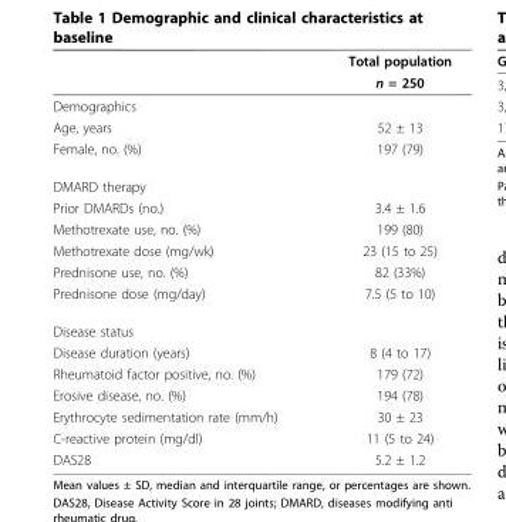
<table><thead><tr><td rowspan="2"></td><td rowspan="2">Total population n = 250</td></tr><tr></tr></thead><tbody><tr><td colspan="2">Demographics</td></tr><tr><td>Age, years</td><td>52 ± 13</td></tr><tr><td>Female, no. (%)</td><td>197 (79)</td></tr><tr><td colspan="2">DMARD therapy</td></tr><tr><td>Prior DMARDs (no.)</td><td>3.4 ± 1.6</td></tr><tr><td>Methotrexate use, no. (%)</td><td>199 (80)</td></tr><tr><td>Methotrexate dose (mg/wk)</td><td>23 (15 to 25)</td></tr><tr><td>Prednisone use, no. (%)</td><td>82 (33%)</td></tr><tr><td>Prednisone dose (mg/day)</td><td>7.5 (5 to 10)</td></tr><tr><td colspan="2">Disease status</td></tr><tr><td>Disease duration (years)</td><td>8 (4 to 17)</td></tr><tr><td>Rheumatoid factor positive, no. (%)</td><td>179 (72)</td></tr><tr><td>Erosive disease, no. (%)</td><td>194 (78)</td></tr><tr><td>Erythrocyte sedimentation rate (mm/h)</td><td>30 ± 23</td></tr><tr><td>C-reactive protein (mg/dl)</td><td>11 (5 to 24)</td></tr><tr><td>DAS28</td><td>5.2 ± 1.2</td></tr></tbody></table>